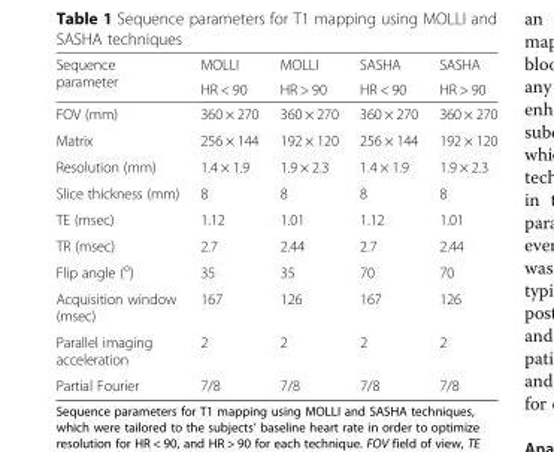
<table><thead><tr><td rowspan="2">Sequence parameter</td><td rowspan="2">MOLLI HR &lt; 90</td><td rowspan="2">MOLLI HR &gt; 90</td><td rowspan="2">SASHA HR &lt; 90</td><td rowspan="2">SASHA HR &gt; 90</td></tr><tr></tr></thead><tbody><tr><td>FOV (mm)</td><td>360 × 270</td><td>360 × 270</td><td>360 × 270</td><td>360 × 270</td></tr><tr><td>Matrix</td><td>256 × 144</td><td>192 × 120</td><td>256 × 144</td><td>192 × 120</td></tr><tr><td>Resolution (mm)</td><td>1.4 × 1.9</td><td>1.9 × 2.3</td><td>1.4 × 1.9</td><td>1.9 × 2.3</td></tr><tr><td>Slice thickness (mm)</td><td>8</td><td>8</td><td>8</td><td>8</td></tr><tr><td>TE (msec)</td><td>1.12</td><td>1.01</td><td>1.12</td><td>1.01</td></tr><tr><td>TR (msec)</td><td>2.7</td><td>2.44</td><td>2.7</td><td>2.44</td></tr><tr><td>Flip angle (<sup>o</sup>)</td><td>35</td><td>35</td><td>70</td><td>70</td></tr><tr><td>Acquisition window (msec)</td><td>167</td><td>126</td><td>167</td><td>126</td></tr><tr><td>Parallel imaging acceleration</td><td>2</td><td>2</td><td>2</td><td>2</td></tr><tr><td>Partial Fourier</td><td>7/8</td><td>7/8</td><td>7/8</td><td>7/8</td></tr></tbody></table>